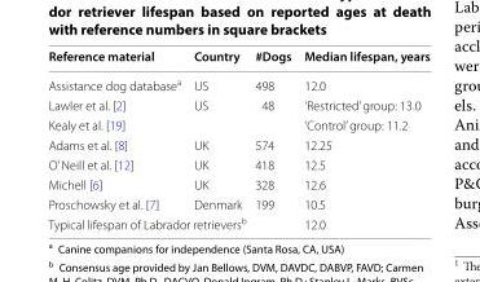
<table><thead><tr><td>Reference material</td><td>Country</td><td>#Dogs</td><td>Median lifespan, years</td></tr></thead><tbody><tr><td>Assistance dog database<sup>a</sup></td><td>US</td><td>498</td><td>12.0</td></tr><tr><td>Lawler et al. [2]</td><td rowspan="2">US</td><td rowspan="2">48</td><td>‘Restricted’ group: 13.0</td></tr><tr><td>Kealy et al. [19]</td><td>‘Control’ group: 11.2</td></tr><tr><td>Adams et al. [8]</td><td>UK</td><td>574</td><td>12.25</td></tr><tr><td>O’ Neill et al. [12]</td><td>UK</td><td>418</td><td>12.5</td></tr><tr><td>Michell [6]</td><td>UK</td><td>328</td><td>12.6</td></tr><tr><td>Proschowsky et al. [7]</td><td>Denmark</td><td>199</td><td>10.5</td></tr><tr><td colspan="3">Typical lifespan of Labrador retrievers<sup>b</sup></td><td>12.0</td></tr></tbody></table>